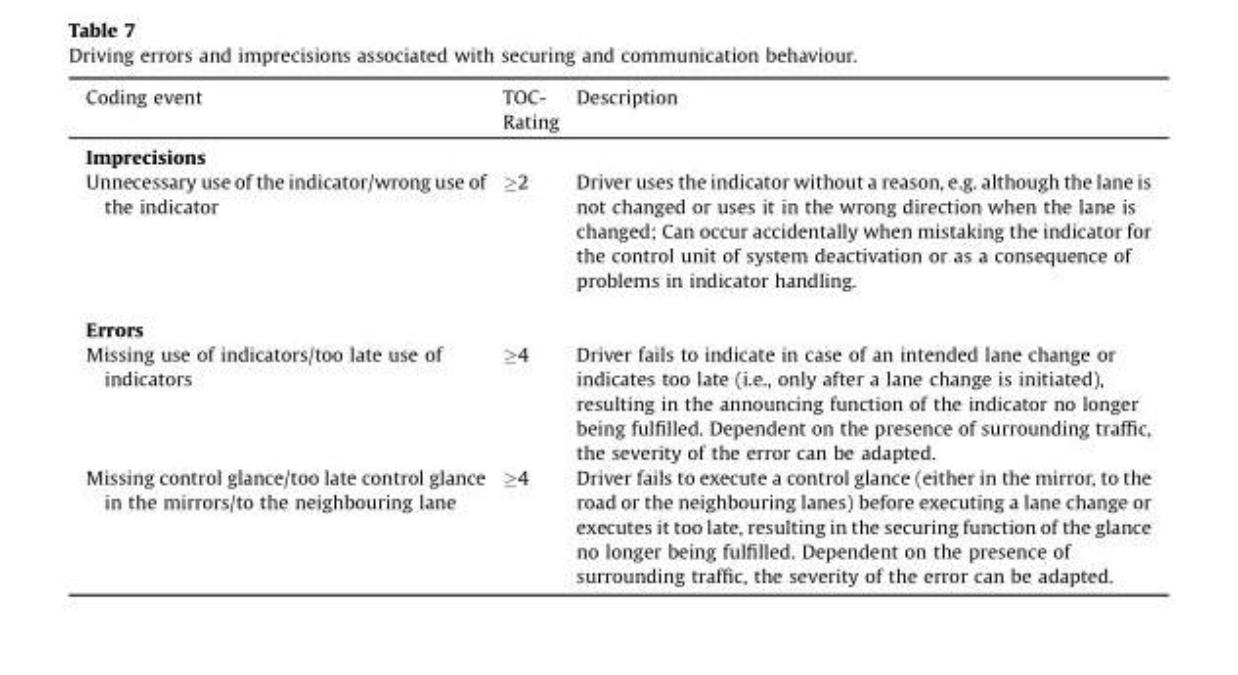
<table><thead><tr><td>Coding event</td><td>TOC- Rating</td><td>Description</td></tr></thead><tbody><tr><td colspan="3">Imprecisions</td></tr><tr><td>Unnecessary use of the indicator/wrong use of the indicator</td><td>≥2</td><td>Driver uses the indicator without a reason, e.g. although the lane is not changed or uses it in the wrong direction when the lane is changed; Can occur accidentally when mistaking the indicator for the control unit of system deactivation or as a consequence of problems in indicator handling.</td></tr><tr><td colspan="3">Errors</td></tr><tr><td>Missing use of indicators/too late use of indicators</td><td>≥4</td><td>Driver fails to indicate in case of an intended lane change or indicates too late (i.e., only after a lane change is initiated), resulting in the announcing function of the indicator no longer being fulfilled. Dependent on the presence of surrounding traffic, the severity of the error can be adapted.</td></tr><tr><td>Missing control glance/too late control glance in the mirrors/to the neighbouring lane</td><td>≥4</td><td>Driver fails to execute a control glance (either in the mirror, to the road or the neighbouring lanes) before executing a lane change or executes it too late, resulting in the securing function of the glance no longer being fulfilled. Dependent on the presence of surrounding traffic, the severity of the error can be adapted.</td></tr></tbody></table>